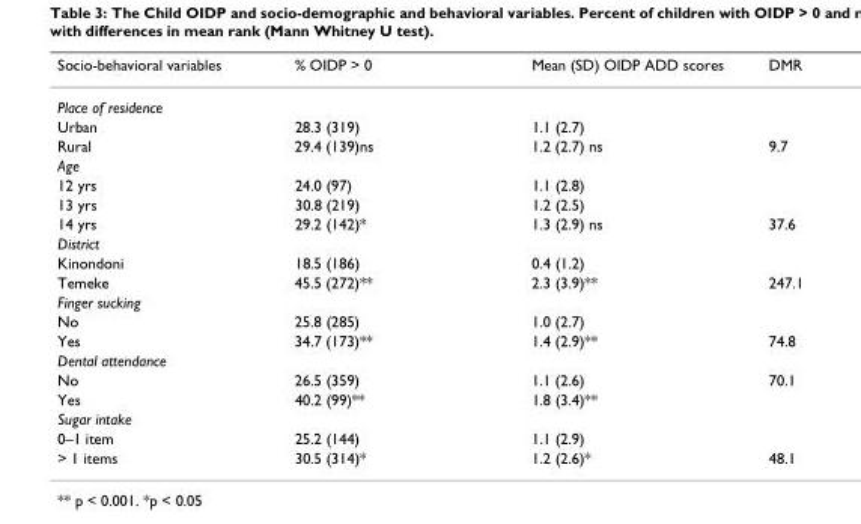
<table><thead><tr><td>Socio-behavioral variables</td><td>% OIDP &gt; 0</td><td>Mean (SD) OIDP ADD scores</td><td>DMR</td></tr></thead><tbody><tr><td colspan="4">Place of residence</td></tr><tr><td>Urban</td><td>28.3 (319)</td><td>1.1 (2.7)</td><td></td></tr><tr><td>Rural</td><td>29.4 (139)ns</td><td>1.2 (2.7) ns</td><td>9.7</td></tr><tr><td colspan="4">Age</td></tr><tr><td>12 yrs</td><td>24.0 (97)</td><td>1.1 (2.8)</td><td></td></tr><tr><td>13 yrs</td><td>30.8 (219)</td><td>1.2 (2.5)</td><td></td></tr><tr><td>14 yrs</td><td>29.2 (142)*</td><td>1.3 (2.9) ns</td><td>37.6</td></tr><tr><td colspan="4">District</td></tr><tr><td>Kinondoni</td><td>18.5 (186)</td><td>0.4 (1.2)</td><td></td></tr><tr><td>Temeke</td><td>45.5 (272)**</td><td>2.3 (3.9)**</td><td>247.1</td></tr><tr><td colspan="4">Finger sucking</td></tr><tr><td>No</td><td>25.8 (285)</td><td>1.0 (2.7)</td><td></td></tr><tr><td>Yes</td><td>34.7 (173)**</td><td>1.4 (2.9)**</td><td>74.8</td></tr><tr><td colspan="4">Dental attendance</td></tr><tr><td>No</td><td>26.5 (359)</td><td>1.1 (2.6)</td><td>70.1</td></tr><tr><td>Yes</td><td>40.2 (99)**</td><td>1.8 (3.4)**</td><td></td></tr><tr><td colspan="4">Sugar intake</td></tr><tr><td>0–1 item</td><td>25.2 (144)</td><td>1.1 (2.9)</td><td></td></tr><tr><td>&gt; 1 items</td><td>30.5 (314)*</td><td>1.2 (2.6)*</td><td>48.1</td></tr></tbody></table>